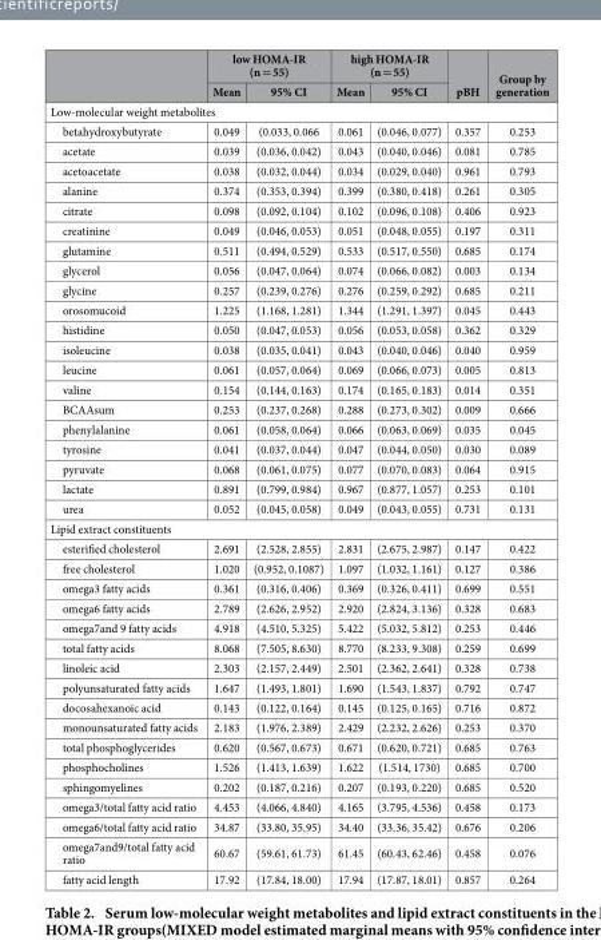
<table><thead><tr><td rowspan="2"></td><td colspan="2">low HOMA-IR (n = 55)</td><td colspan="2">high HOMA-IR (n = 55)</td><td rowspan="2">pBH</td><td rowspan="2">Group by generation</td></tr><tr><td>Mean</td><td>95% CI</td><td>Mean</td><td>95% CI</td></tr></thead><tbody><tr><td colspan="7">Low-molecular weight metabolites</td></tr><tr><td>betahydroxybutyrate</td><td>0.049</td><td>(0.033, 0.066</td><td>0.061</td><td>(0.046, 0.077)</td><td>0.357</td><td>0.253</td></tr><tr><td>acetate</td><td>0.039</td><td>(0.036, 0.042)</td><td>0.043</td><td>(0.040, 0.046)</td><td>0.081</td><td>0.785</td></tr><tr><td>acetoacetate</td><td>0.038</td><td>(0.032, 0.044)</td><td>0.034</td><td>(0.029, 0.040)</td><td>0.961</td><td>0.793</td></tr><tr><td>alanine</td><td>0.374</td><td>(0.353, 0.394)</td><td>0.399</td><td>(0.380, 0.418)</td><td>0.261</td><td>0.305</td></tr><tr><td>citrate</td><td>0.098</td><td>(0.092, 0.104)</td><td>0.102</td><td>(0.096, 0.108)</td><td>0.406</td><td>0.923</td></tr><tr><td>creatinine</td><td>0.049</td><td>(0.046, 0.053)</td><td>0.051</td><td>(0.048, 0.055)</td><td>0.197</td><td>0.311</td></tr><tr><td>glutamine</td><td>0.511</td><td>(0.494, 0.529)</td><td>0.533</td><td>(0.517, 0.550)</td><td>0.685</td><td>0.174</td></tr><tr><td>glycerol</td><td>0.056</td><td>(0.047, 0.064)</td><td>0.074</td><td>(0.066, 0.082)</td><td>0.003</td><td>0.134</td></tr><tr><td>glycine</td><td>0.257</td><td>(0.239, 0.276)</td><td>0.276</td><td>(0.259, 0.292)</td><td>0.685</td><td>0.211</td></tr><tr><td>orosomucoid</td><td>1.225</td><td>(1.168, 1.281)</td><td>1.344</td><td>(1.291, 1.397)</td><td>0.045</td><td>0.443</td></tr><tr><td>histidine</td><td>0.050</td><td>(0.047, 0.053)</td><td>0.056</td><td>(0.053, 0.058)</td><td>0.362</td><td>0.329</td></tr><tr><td>isoleucine</td><td>0.038</td><td>(0.035, 0.041)</td><td>0.043</td><td>(0.040, 0.046)</td><td>0.040</td><td>0.959</td></tr><tr><td>leucine</td><td>0.061</td><td>(0.057, 0.064)</td><td>0.069</td><td>(0.066, 0.073)</td><td>0.005</td><td>0.813</td></tr><tr><td>valine</td><td>0.154</td><td>(0.144, 0.163)</td><td>0.174</td><td>(0.165, 0.183)</td><td>0.014</td><td>0.351</td></tr><tr><td>BCAAsum</td><td>0.253</td><td>(0.237, 0.268)</td><td>0.288</td><td>(0.273, 0.302)</td><td>0.009</td><td>0.666</td></tr><tr><td>phenylalanine</td><td>0.061</td><td>(0.058, 0.064)</td><td>0.066</td><td>(0.063, 0.069)</td><td>0.035</td><td>0.045</td></tr><tr><td>tyrosine</td><td>0.041</td><td>(0.037, 0.044)</td><td>0.047</td><td>(0.044, 0.050)</td><td>0.030</td><td>0.089</td></tr><tr><td>pyruvate</td><td>0.068</td><td>(0.061, 0.075)</td><td>0.077</td><td>(0.070, 0.083)</td><td>0.064</td><td>0.915</td></tr><tr><td>lactate</td><td>0.891</td><td>(0.799, 0.984)</td><td>0.967</td><td>(0.877, 1.057)</td><td>0.253</td><td>0.101</td></tr><tr><td>urea</td><td>0.052</td><td>(0.045, 0.058)</td><td>0.049</td><td>(0.043, 0.055)</td><td>0.731</td><td>0.131</td></tr><tr><td colspan="7">Lipid extract constituents</td></tr><tr><td>esterified cholesterol</td><td>2.691</td><td>(2.528, 2.855)</td><td>2.831</td><td>(2.675, 2.987)</td><td>0.147</td><td>0.422</td></tr><tr><td>free cholesterol</td><td>1.020</td><td>(0.952, 0.1087)</td><td>1.097</td><td>(1.032, 1.161)</td><td>0.127</td><td>0.386</td></tr><tr><td>omega3 fatty acids</td><td>0.361</td><td>(0.316, 0.406)</td><td>0.369</td><td>(0.326, 0.411)</td><td>0.699</td><td>0.551</td></tr><tr><td>omega6 fatty acids</td><td>2.789</td><td>(2.626, 2.952)</td><td>2.920</td><td>(2.824, 3.136)</td><td>0.328</td><td>0.683</td></tr><tr><td>omega7and 9 fatty acids</td><td>4.918</td><td>(4.510, 5.325)</td><td>5.422</td><td>(5.032, 5.812)</td><td>0.253</td><td>0.446</td></tr><tr><td>total fatty acids</td><td>8.068</td><td>(7.505, 8.630)</td><td>8.770</td><td>(8.233, 9.308)</td><td>0.259</td><td>0.699</td></tr><tr><td>linoleic acid</td><td>2.303</td><td>(2.157, 2.449)</td><td>2.501</td><td>(2.362, 2.641)</td><td>0.328</td><td>0.738</td></tr><tr><td>polyunsaturated fatty acids</td><td>1.647</td><td>(1.493, 1.801)</td><td>1.690</td><td>(1.543, 1.837)</td><td>0.792</td><td>0.747</td></tr><tr><td>docosahexanoic acid</td><td>0.143</td><td>(0.122, 0.164)</td><td>0.145</td><td>(0.125, 0.165)</td><td>0.716</td><td>0.872</td></tr><tr><td>monounsaturated fatty acids</td><td>2.183</td><td>(1.976, 2.389)</td><td>2.429</td><td>(2.232, 2.626)</td><td>0.253</td><td>0.370</td></tr><tr><td>total phosphoglycerides</td><td>0.620</td><td>(0.567, 0.673)</td><td>0.671</td><td>(0.620, 0.721)</td><td>0.685</td><td>0.763</td></tr><tr><td>phosphocholines</td><td>1.526</td><td>(1.413, 1.639)</td><td>1.622</td><td>(1.514, 1730)</td><td>0.685</td><td>0.700</td></tr><tr><td>sphingomyelines</td><td>0.202</td><td>(0.187, 0.216)</td><td>0.207</td><td>(0.193, 0.220)</td><td>0.685</td><td>0.520</td></tr><tr><td>omega3/total fatty acid ratio</td><td>4.453</td><td>(4.066, 4.840)</td><td>4.165</td><td>(3.795, 4.536)</td><td>0.458</td><td>0.173</td></tr><tr><td>omega6/total fatty acid ratio</td><td>34.87</td><td>(33.80, 35.95)</td><td>34.40</td><td>(33.36, 35.42)</td><td>0.676</td><td>0.206</td></tr><tr><td>omega7and9/total fatty acid ratio</td><td>60.67</td><td>(59.61, 61.73)</td><td>61.45</td><td>(60.43, 62.46)</td><td>0.458</td><td>0.076</td></tr><tr><td>fatty acid length</td><td>17.92</td><td>(17.84, 18.00)</td><td>17.94</td><td>(17.87, 18.01)</td><td>0.857</td><td>0.264</td></tr></tbody></table>